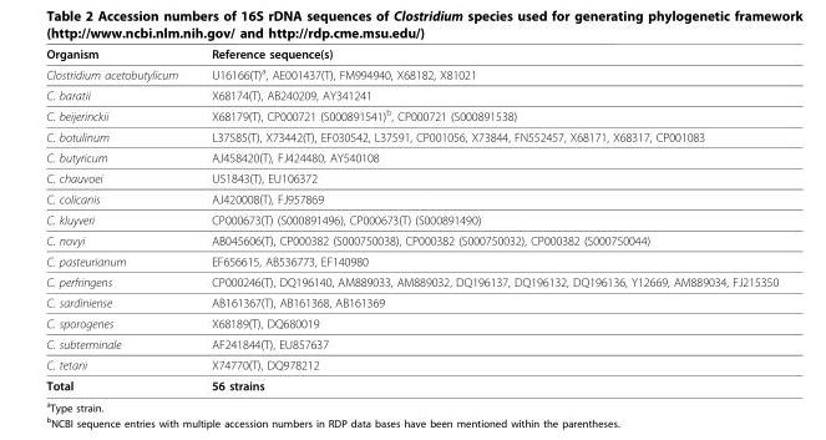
<table><thead><tr><td>Organism</td><td>Reference sequence(s)</td></tr></thead><tbody><tr><td>Clostridium acetobutylicum</td><td>U16166(T)<sup>a</sup>, AE001437(T), FM994940, X68182, X81021</td></tr><tr><td>C. baratii</td><td>X68174(T), AB240209, AY341241</td></tr><tr><td>C. beijerinckii</td><td>X68179(T), CP000721 (S000891541)<sup>b</sup>, CP000721 (S000891538)</td></tr><tr><td>C. botulinum</td><td>L37585(T), X73442(T), EF030542, L37591, CP001056, X73844, FN552457, X68171, X68317, CP001083</td></tr><tr><td>C. butyricum</td><td>AJ458420(T), FJ424480, AY540108</td></tr><tr><td>C. chauvoei</td><td>U51843(T), EU106372</td></tr><tr><td>C. colicanis</td><td>AJ420008(T), FJ957869</td></tr><tr><td>C. kluyveri</td><td>CP000673(T) (S000891496), CP000673(T) (S000891490)</td></tr><tr><td>C. novyi</td><td>AB045606(T), CP000382 (S000750038), CP000382 (S000750032), CP000382 (S000750044)</td></tr><tr><td>C. pasteurianum</td><td>EF656615, AB536773, EF140980</td></tr><tr><td>C. perfringens</td><td>CP000246(T), DQ196140, AM889033, AM889032, DQ196137, DQ196132, DQ196136, Y12669, AM889034, FJ215350</td></tr><tr><td>C. sardiniense</td><td>AB161367(T), AB161368, AB161369</td></tr><tr><td>C. sporogenes</td><td>X68189(T), DQ680019</td></tr><tr><td>C. subterminale</td><td>AF241844(T), EU857637</td></tr><tr><td>C. tetani</td><td>X74770(T), DQ978212</td></tr><tr><td>Total</td><td>56 strains</td></tr></tbody></table>